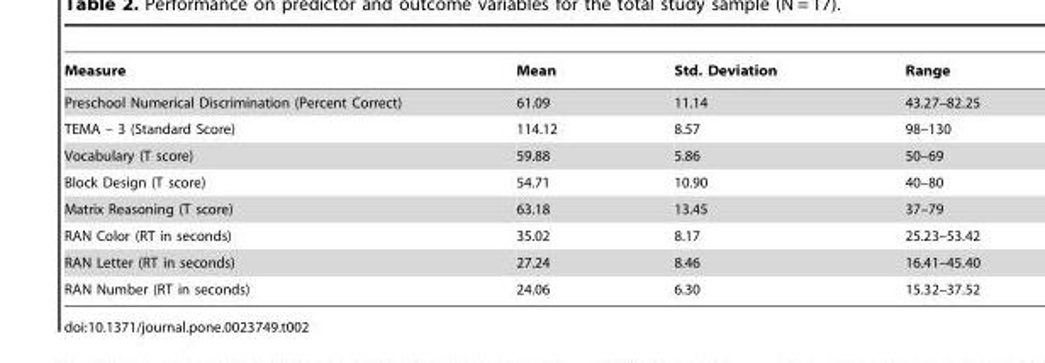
<table><thead><tr><td>Measure</td><td>Mean</td><td>Std. Deviation</td><td>Range</td></tr></thead><tbody><tr><td>Preschool Numerical Discrimination (Percent Correct)</td><td>61.09</td><td>11.14</td><td>43.27–82.25</td></tr><tr><td>TEMA – 3 (Standard Score)</td><td>114.12</td><td>8.57</td><td>98–130</td></tr><tr><td>Vocabulary (T score)</td><td>59.88</td><td>5.86</td><td>50–69</td></tr><tr><td>Block Design (T score)</td><td>54.71</td><td>10.90</td><td>40–80</td></tr><tr><td>Matrix Reasoning (T score)</td><td>63.18</td><td>13.45</td><td>37–79</td></tr><tr><td>RAN Color (RT in seconds)</td><td>35.02</td><td>8.17</td><td>25.23–53.42</td></tr><tr><td>RAN Letter (RT in seconds)</td><td>27.24</td><td>8.46</td><td>16.41–45.40</td></tr><tr><td>RAN Number (RT in seconds)</td><td>24.06</td><td>6.30</td><td>15.32–37.52</td></tr></tbody></table>